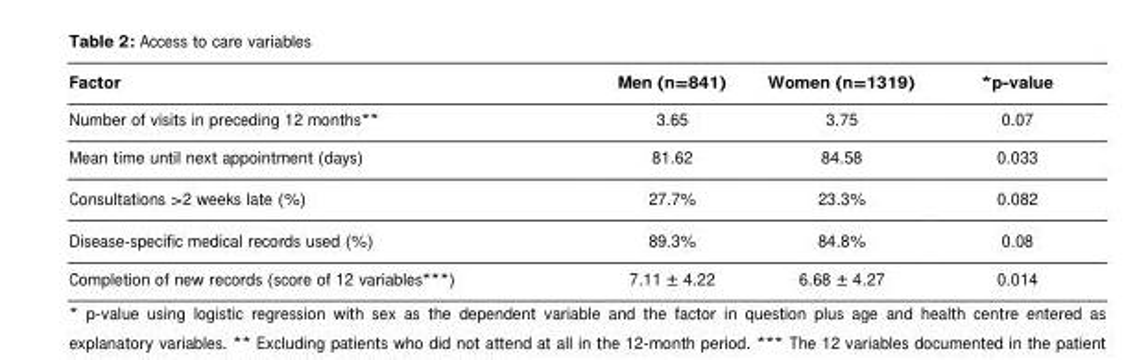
<table><thead><tr><td>Factor</td><td>Men (n=841)</td><td>Women (n=1319)</td><td>*p-value</td></tr></thead><tbody><tr><td>Number of visits in preceding 12 months**</td><td>3.65</td><td>3.75</td><td>0.07</td></tr><tr><td>Mean time until next appointment (days)</td><td>81.62</td><td>84.58</td><td>0.033</td></tr><tr><td>Consultations &gt;2 weeks late (%)</td><td>27.7%</td><td>23.3%</td><td>0.082</td></tr><tr><td>Disease-specific medical records used (%)</td><td>89.3%</td><td>84.8%</td><td>0.08</td></tr><tr><td>Completion of new records (score of 12 variables***)</td><td>7.11 ± 4.22</td><td>6.68 ± 4.27</td><td>0.014</td></tr></tbody></table>